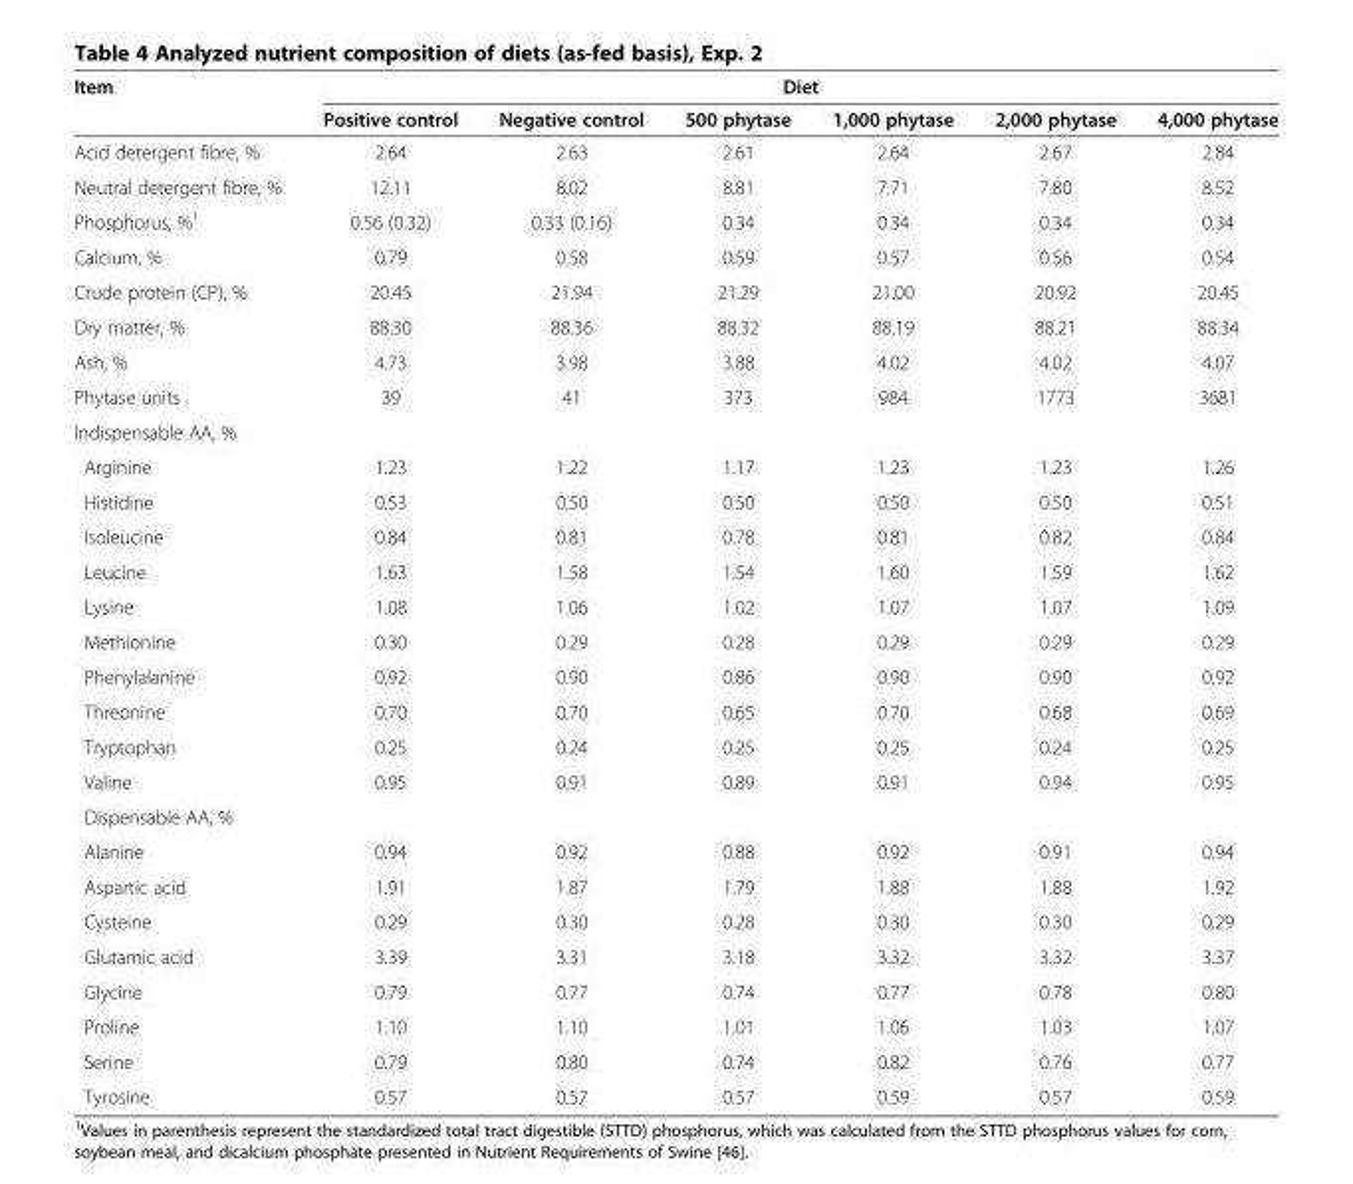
<table><thead><tr><td rowspan="2">Item</td><td colspan="6">Diet</td></tr><tr><td>Positive control</td><td>Negative control</td><td>500 phytase</td><td>1,000 phytase</td><td>2,000 phytase</td><td>4,000 phytase</td></tr></thead><tbody><tr><td>Acid detergent fibre, %</td><td>2.64</td><td>2.63</td><td>2.61</td><td>2.64</td><td>2.67</td><td>2.84</td></tr><tr><td>Neutral detergent fibre, %</td><td>12.11</td><td>8.02</td><td>8.81</td><td>7.71</td><td>7.80</td><td>8.52</td></tr><tr><td>Phosphorus, %<sup>1</sup></td><td>0.56 (0.32)</td><td>0.33 (0.16)</td><td>0.34</td><td>0.34</td><td>0.34</td><td>0.34</td></tr><tr><td>Calcium, %</td><td>0.79</td><td>0.58</td><td>0.59</td><td>0.57</td><td>0.56</td><td>0.54</td></tr><tr><td>Crude protein (CP), %</td><td>20.45</td><td>21.94</td><td>21.29</td><td>21.00</td><td>20.92</td><td>20.45</td></tr><tr><td>Dry matter, %</td><td>88.30</td><td>88.36</td><td>88.32</td><td>88.19</td><td>88.21</td><td>88.34</td></tr><tr><td>Ash, %</td><td>4.73</td><td>3.98</td><td>3.88</td><td>4.02</td><td>4.02</td><td>4.07</td></tr><tr><td>Phytase units</td><td>39</td><td>41</td><td>373</td><td>984</td><td>1773</td><td>3681</td></tr><tr><td colspan="7">Indispensable AA, %</td></tr><tr><td>Arginine</td><td>1.23</td><td>1.22</td><td>1.17</td><td>1.23</td><td>1.23</td><td>1.26</td></tr><tr><td>Histidine</td><td>0.53</td><td>0.50</td><td>0.50</td><td>0.50</td><td>0.50</td><td>0.51</td></tr><tr><td>Isoleucine</td><td>0.84</td><td>0.81</td><td>0.78</td><td>0.81</td><td>0.82</td><td>0.84</td></tr><tr><td>Leucine</td><td>1.63</td><td>1.58</td><td>1.54</td><td>1.60</td><td>1.59</td><td>1.62</td></tr><tr><td>Lysine</td><td>1.08</td><td>1.06</td><td>1.02</td><td>1.07</td><td>1.07</td><td>1.09</td></tr><tr><td>Methionine</td><td>0.30</td><td>0.29</td><td>0.28</td><td>0.29</td><td>0.29</td><td>0.29</td></tr><tr><td>Phenylalanine</td><td>0.92</td><td>0.90</td><td>0.86</td><td>0.90</td><td>0.90</td><td>0.92</td></tr><tr><td>Threonine</td><td>0.70</td><td>0.70</td><td>0.65</td><td>0.70</td><td>0.68</td><td>0.69</td></tr><tr><td>Tryptophan</td><td>0.25</td><td>0.24</td><td>0.25</td><td>0.25</td><td>0.24</td><td>0.25</td></tr><tr><td>Valine</td><td>0.95</td><td>0.91</td><td>0.89</td><td>0.91</td><td>0.94</td><td>0.95</td></tr><tr><td colspan="7">Dispensable AA, %</td></tr><tr><td>Alanine</td><td>0.94</td><td>0.92</td><td>0.88</td><td>0.92</td><td>0.91</td><td>0.94</td></tr><tr><td>Aspartic acid</td><td>1.91</td><td>1.87</td><td>1.79</td><td>1.88</td><td>1.88</td><td>1.92</td></tr><tr><td>Cysteine</td><td>0.29</td><td>0.30</td><td>0.28</td><td>0.30</td><td>0.30</td><td>0.29</td></tr><tr><td>Glutamic acid</td><td>3.39</td><td>3.31</td><td>3.18</td><td>3.32</td><td>3.32</td><td>3.37</td></tr><tr><td>Glycine</td><td>0.79</td><td>0.77</td><td>0.74</td><td>0.77</td><td>0.78</td><td>0.80</td></tr><tr><td>Proline</td><td>1.10</td><td>1.10</td><td>1.01</td><td>1.06</td><td>1.03</td><td>1.07</td></tr><tr><td>Serine</td><td>0.79</td><td>0.80</td><td>0.74</td><td>0.82</td><td>0.76</td><td>0.77</td></tr><tr><td>Tyrosine</td><td>0.57</td><td>0.57</td><td>0.57</td><td>0.59</td><td>0.57</td><td>0.59</td></tr></tbody></table>